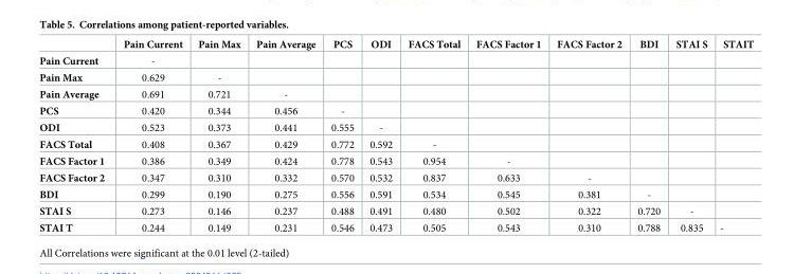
<table><thead><tr><td></td><td>Pain Current</td><td>Pain Max</td><td>Pain Average</td><td>PCS</td><td>ODI</td><td>FACS Total</td><td>FACS Factor 1</td><td>FACS Factor 2</td><td>BDI</td><td>STAI S</td><td>STAIT</td></tr></thead><tbody><tr><td>Pain Current</td><td>-</td><td></td><td></td><td></td><td></td><td></td><td></td><td></td><td></td><td></td><td></td></tr><tr><td>Pain Max</td><td>0.629</td><td>-</td><td></td><td></td><td></td><td></td><td></td><td></td><td></td><td></td><td></td></tr><tr><td>Pain Average</td><td>0.691</td><td>0.721</td><td>-</td><td></td><td></td><td></td><td></td><td></td><td></td><td></td><td></td></tr><tr><td>PCS</td><td>0.420</td><td>0.344</td><td>0.456</td><td>-</td><td></td><td></td><td></td><td></td><td></td><td></td><td></td></tr><tr><td>ODI</td><td>0.523</td><td>0.373</td><td>0.441</td><td>0.555</td><td>-</td><td></td><td></td><td></td><td></td><td></td><td></td></tr><tr><td>FACS Total</td><td>0.408</td><td>0.367</td><td>0.429</td><td>0.772</td><td>0.592</td><td>-</td><td></td><td></td><td></td><td></td><td></td></tr><tr><td>FACS Factor 1</td><td>0.386</td><td>0.349</td><td>0.424</td><td>0.778</td><td>0.543</td><td>0.954</td><td>-</td><td></td><td></td><td></td><td></td></tr><tr><td>FACS Factor 2</td><td>0.347</td><td>0.310</td><td>0.332</td><td>0.570</td><td>0.532</td><td>0.837</td><td>0.633</td><td>-</td><td></td><td></td><td></td></tr><tr><td>BDI</td><td>0.299</td><td>0.190</td><td>0.275</td><td>0.556</td><td>0.591</td><td>0.534</td><td>0.545</td><td>0.381</td><td>-</td><td></td><td></td></tr><tr><td>STAI S</td><td>0.273</td><td>0.146</td><td>0.237</td><td>0.488</td><td>0.491</td><td>0.480</td><td>0.502</td><td>0.322</td><td>0.720</td><td>-</td><td></td></tr><tr><td>STAI T</td><td>0.244</td><td>0.149</td><td>0.231</td><td>0.546</td><td>0.473</td><td>0.505</td><td>0.543</td><td>0.310</td><td>0.788</td><td>0.835</td><td>-</td></tr></tbody></table>